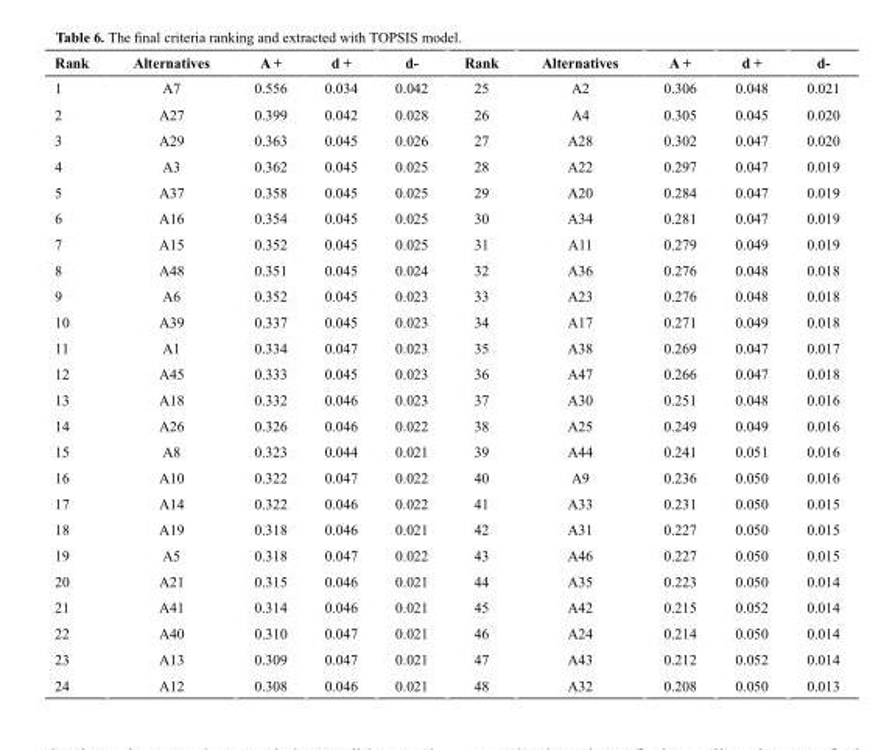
<table><thead><tr><td>Rank</td><td>Alternatives</td><td>A +</td><td>d +</td><td>d-</td><td>Rank</td><td>Alternatives</td><td>A +</td><td>d +</td><td>d-</td></tr></thead><tbody><tr><td>1</td><td>A7</td><td>0.556</td><td>0.034</td><td>0.042</td><td>25</td><td>A2</td><td>0.306</td><td>0.048</td><td>0.021</td></tr><tr><td>2</td><td>A27</td><td>0.399</td><td>0.042</td><td>0.028</td><td>26</td><td>A4</td><td>0.305</td><td>0.045</td><td>0.020</td></tr><tr><td>3</td><td>A29</td><td>0.363</td><td>0.045</td><td>0.026</td><td>27</td><td>A28</td><td>0.302</td><td>0.047</td><td>0.020</td></tr><tr><td>4</td><td>A3</td><td>0.362</td><td>0.045</td><td>0.025</td><td>28</td><td>A22</td><td>0.297</td><td>0.047</td><td>0.019</td></tr><tr><td>5</td><td>A37</td><td>0.358</td><td>0.045</td><td>0.025</td><td>29</td><td>A20</td><td>0.284</td><td>0.047</td><td>0.019</td></tr><tr><td>6</td><td>A16</td><td>0.354</td><td>0.045</td><td>0.025</td><td>30</td><td>A34</td><td>0.281</td><td>0.047</td><td>0.019</td></tr><tr><td>7</td><td>A15</td><td>0.352</td><td>0.045</td><td>0.025</td><td>31</td><td>A11</td><td>0.279</td><td>0.049</td><td>0.019</td></tr><tr><td>8</td><td>A48</td><td>0.351</td><td>0.045</td><td>0.024</td><td>32</td><td>A36</td><td>0.276</td><td>0.048</td><td>0.018</td></tr><tr><td>9</td><td>A6</td><td>0.352</td><td>0.045</td><td>0.023</td><td>33</td><td>A23</td><td>0.276</td><td>0.048</td><td>0.018</td></tr><tr><td>10</td><td>A39</td><td>0.337</td><td>0.045</td><td>0.023</td><td>34</td><td>A17</td><td>0.271</td><td>0.049</td><td>0.018</td></tr><tr><td>11</td><td>A1</td><td>0.334</td><td>0.047</td><td>0.023</td><td>35</td><td>A38</td><td>0.269</td><td>0.047</td><td>0.017</td></tr><tr><td>12</td><td>A45</td><td>0.333</td><td>0.045</td><td>0.023</td><td>36</td><td>A47</td><td>0.266</td><td>0.047</td><td>0.018</td></tr><tr><td>13</td><td>A18</td><td>0.332</td><td>0.046</td><td>0.023</td><td>37</td><td>A30</td><td>0.251</td><td>0.048</td><td>0.016</td></tr><tr><td>14</td><td>A26</td><td>0.326</td><td>0.046</td><td>0.022</td><td>38</td><td>A25</td><td>0.249</td><td>0.049</td><td>0.016</td></tr><tr><td>15</td><td>A8</td><td>0.323</td><td>0.044</td><td>0.021</td><td>39</td><td>A44</td><td>0.241</td><td>0.051</td><td>0.016</td></tr><tr><td>16</td><td>A10</td><td>0.322</td><td>0.047</td><td>0.022</td><td>40</td><td>A9</td><td>0.236</td><td>0.050</td><td>0.016</td></tr><tr><td>17</td><td>A14</td><td>0.322</td><td>0.046</td><td>0.022</td><td>41</td><td>A33</td><td>0.231</td><td>0.050</td><td>0.015</td></tr><tr><td>18</td><td>A19</td><td>0.318</td><td>0.046</td><td>0.021</td><td>42</td><td>A31</td><td>0.227</td><td>0.050</td><td>0.015</td></tr><tr><td>19</td><td>A5</td><td>0.318</td><td>0.047</td><td>0.022</td><td>43</td><td>A46</td><td>0.227</td><td>0.050</td><td>0.015</td></tr><tr><td>20</td><td>A21</td><td>0.315</td><td>0.046</td><td>0.021</td><td>44</td><td>A35</td><td>0.223</td><td>0.050</td><td>0.014</td></tr><tr><td>21</td><td>A41</td><td>0.314</td><td>0.046</td><td>0.021</td><td>45</td><td>A42</td><td>0.215</td><td>0.052</td><td>0.014</td></tr><tr><td>22</td><td>A40</td><td>0.310</td><td>0.047</td><td>0.021</td><td>46</td><td>A24</td><td>0.214</td><td>0.050</td><td>0.014</td></tr><tr><td>23</td><td>A13</td><td>0.309</td><td>0.047</td><td>0.021</td><td>47</td><td>A43</td><td>0.212</td><td>0.052</td><td>0.014</td></tr><tr><td>24</td><td>A12</td><td>0.308</td><td>0.046</td><td>0.021</td><td>48</td><td>A32</td><td>0.208</td><td>0.050</td><td>0.013</td></tr></tbody></table>